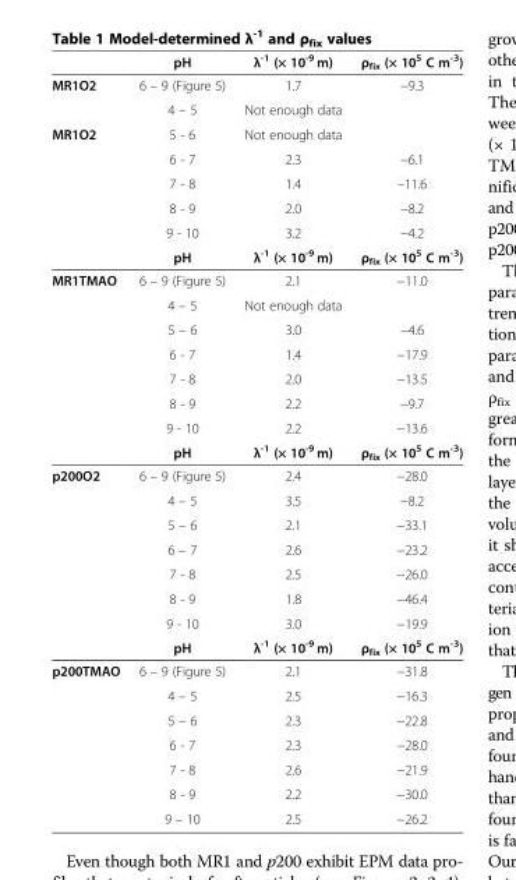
<table><thead><tr><td></td><td>pH</td><td>λ<sup>-1</sup> (× 10<sup>-9</sup> m)</td><td>ρ<sub>fix</sub> (× 10<sup>5</sup> C m<sup>-3</sup>)</td></tr></thead><tbody><tr><td rowspan="2">MR1O2</td><td>6 – 9 (Figure 5)</td><td>1.7</td><td>−9.3</td></tr><tr><td>4 – 5</td><td>Not enough data</td><td></td></tr><tr><td rowspan="6">MR1O2</td><td>5 - 6</td><td>Not enough data</td><td></td></tr><tr><td>6 - 7</td><td>2.3</td><td>−6.1</td></tr><tr><td>7 - 8</td><td>1.4</td><td>–11.6</td></tr><tr><td>8 - 9</td><td>2.0</td><td>−8.2</td></tr><tr><td>9 - 10</td><td>3.2</td><td>−4.2</td></tr><tr><td>pH</td><td>λ<sup>-1</sup> (× 10<sup>-9</sup> m)</td><td>ρ<sub>fix</sub> (× 10<sup>5</sup> C m<sup>-3</sup>)</td></tr><tr><td rowspan="8">MR1TMAO</td><td>6 – 9 (Figure 5)</td><td>2.1</td><td>−11.0</td></tr><tr><td>4 – 5</td><td>Not enough data</td><td></td></tr><tr><td>5 – 6</td><td>3.0</td><td>−4.6</td></tr><tr><td>6 - 7</td><td>1.4</td><td>−17.9</td></tr><tr><td>7 - 8</td><td>2.0</td><td>−13.5</td></tr><tr><td>8 - 9</td><td>2.2</td><td>−9.7</td></tr><tr><td>9 - 10</td><td>2.2</td><td>−13.6</td></tr><tr><td>pH</td><td>λ<sup>-1</sup> (× 10<sup>-9</sup> m)</td><td>ρ<sub>fix</sub> (× 10<sup>5</sup> C m<sup>-3</sup>)</td></tr><tr><td rowspan="8">p200O2</td><td>6 – 9 (Figure 5)</td><td>2.4</td><td>−28.0</td></tr><tr><td>4 – 5</td><td>3.5</td><td>−8.2</td></tr><tr><td>5 – 6</td><td>2.1</td><td>−33.1</td></tr><tr><td>6 – 7</td><td>2.6</td><td>−23.2</td></tr><tr><td>7 - 8</td><td>2.5</td><td>−26.0</td></tr><tr><td>8 - 9</td><td>1.8</td><td>−46.4</td></tr><tr><td>9 - 10</td><td>3.0</td><td>−19.9</td></tr><tr><td>pH</td><td>λ<sup>-1</sup> (× 10<sup>-9</sup> m)</td><td>ρ<sub>fix</sub> (× 10<sup>5</sup> C m<sup>-3</sup>)</td></tr><tr><td rowspan="7">p200TMAO</td><td>6 – 9 (Figure 5)</td><td>2.1</td><td>−31.8</td></tr><tr><td>4 – 5</td><td>2.5</td><td>−16.3</td></tr><tr><td>5 – 6</td><td>2.3</td><td>−22.8</td></tr><tr><td>6 - 7</td><td>2.3</td><td>−28.0</td></tr><tr><td>7 - 8</td><td>2.6</td><td>−21.9</td></tr><tr><td>8 - 9</td><td>2.2</td><td>−30.0</td></tr><tr><td>9 – 10</td><td>2.5</td><td>−26.2</td></tr></tbody></table>